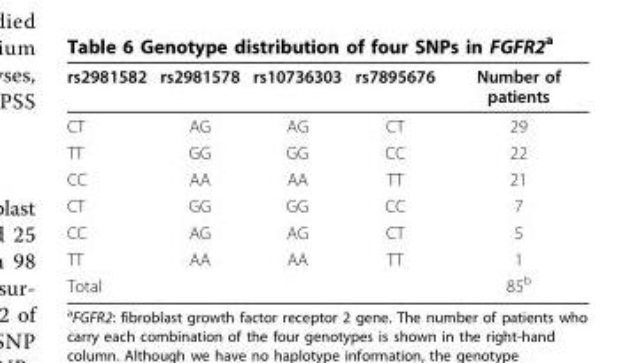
<table><thead><tr><td>rs2981582</td><td>rs2981578</td><td>rs10736303</td><td>rs7895676</td><td>Number of patients</td></tr></thead><tbody><tr><td>CT</td><td>AG</td><td>AG</td><td>CT</td><td>29</td></tr><tr><td>TT</td><td>GG</td><td>GG</td><td>CC</td><td>22</td></tr><tr><td>CC</td><td>AA</td><td>AA</td><td>TT</td><td>21</td></tr><tr><td>CT</td><td>GG</td><td>GG</td><td>CC</td><td>7</td></tr><tr><td>CC</td><td>AG</td><td>AG</td><td>CT</td><td>5</td></tr><tr><td>TT</td><td>AA</td><td>AA</td><td>TT</td><td>1</td></tr><tr><td>Total</td><td></td><td></td><td></td><td>85<sup>b</sup></td></tr></tbody></table>